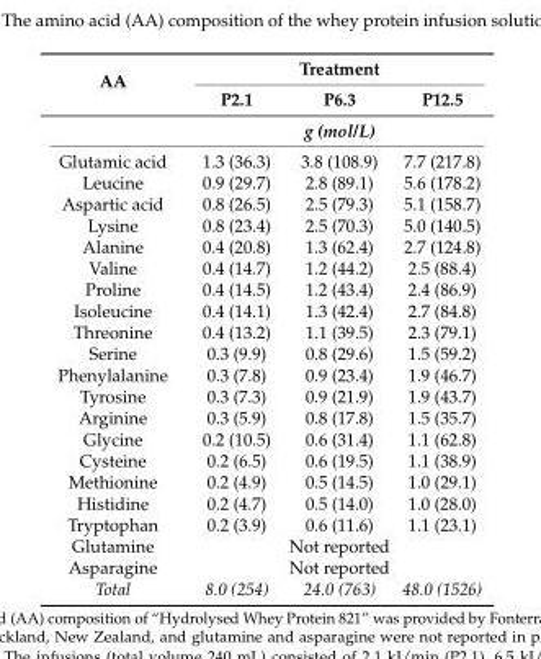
<table><thead><tr><td rowspan="2">AA</td><td colspan="3">Treatment</td></tr><tr><td>P2.1</td><td>P6.3</td><td>P12.5</td></tr></thead><tbody><tr><td></td><td colspan="3">g (mol/L)</td></tr><tr><td>Glutamic acid</td><td>1.3 (36.3)</td><td>3.8 (108.9)</td><td>7.7 (217.8)</td></tr><tr><td>Leucine</td><td>0.9 (29.7)</td><td>2.8 (89.1)</td><td>5.6 (178.2)</td></tr><tr><td>Aspartic acid</td><td>0.8 (26.5)</td><td>2.5 (79.3)</td><td>5.1 (158.7)</td></tr><tr><td>Lysine</td><td>0.8 (23.4)</td><td>2.5 (70.3)</td><td>5.0 (140.5)</td></tr><tr><td>Alanine</td><td>0.4 (20.8)</td><td>1.3 (62.4)</td><td>2.7 (124.8)</td></tr><tr><td>Valine</td><td>0.4 (14.7)</td><td>1.2 (44.2)</td><td>2.5 (88.4)</td></tr><tr><td>Proline</td><td>0.4 (14.5)</td><td>1.2 (43.4)</td><td>2.4 (86.9)</td></tr><tr><td>Isoleucine</td><td>0.4 (14.1)</td><td>1.3 (42.4)</td><td>2.7 (84.8)</td></tr><tr><td>Threonine</td><td>0.4 (13.2)</td><td>1.1 (39.5)</td><td>2.3 (79.1)</td></tr><tr><td>Serine</td><td>0.3 (9.9)</td><td>0.8 (29.6)</td><td>1.5 (59.2)</td></tr><tr><td>Phenylalanine</td><td>0.3 (7.8)</td><td>0.9 (23.4)</td><td>1.9 (46.7)</td></tr><tr><td>Tyrosine</td><td>0.3 (7.3)</td><td>0.9 (21.9)</td><td>1.9 (43.7)</td></tr><tr><td>Arginine</td><td>0.3 (5.9)</td><td>0.8 (17.8)</td><td>1.5 (35.7)</td></tr><tr><td>Glycine</td><td>0.2 (10.5)</td><td>0.6 (31.4)</td><td>1.1 (62.8)</td></tr><tr><td>Cysteine</td><td>0.2 (6.5)</td><td>0.6 (19.5)</td><td>1.1 (38.9)</td></tr><tr><td>Methionine</td><td>0.2 (4.9)</td><td>0.5 (14.5)</td><td>1.0 (29.1)</td></tr><tr><td>Histidine</td><td>0.2 (4.7)</td><td>0.5 (14.0)</td><td>1.0 (28.0)</td></tr><tr><td>Tryptophan</td><td>0.2 (3.9)</td><td>0.6 (11.6)</td><td>1.1 (23.1)</td></tr><tr><td>Glutamine</td><td colspan="3">Not reported</td></tr><tr><td>Asparagine</td><td colspan="3">Not reported</td></tr><tr><td>Total</td><td>8.0 (254)</td><td>24.0 (763)</td><td>48.0 (1526)</td></tr></tbody></table>